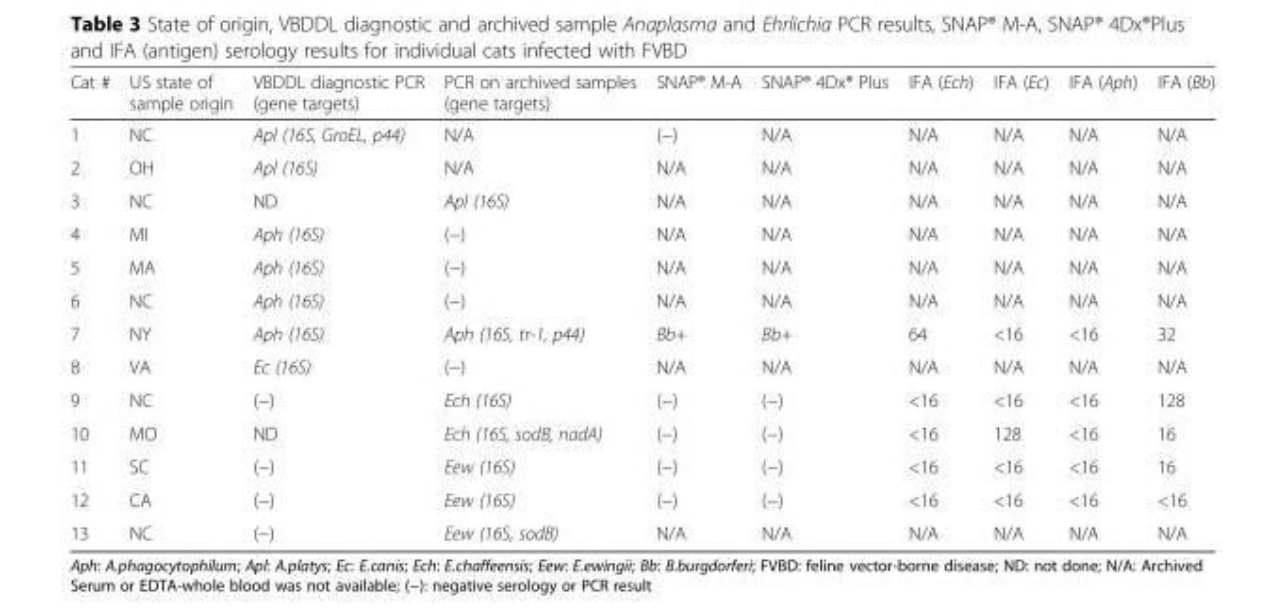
<table><thead><tr><td>Cat #</td><td>US state of sample origin</td><td>VBDDL diagnostic PCR (gene targets)</td><td>PCR on archived samples (gene targets)</td><td>SNAP® M-A</td><td>SNAP® 4Dx® Plus</td><td>IFA (Ech)</td><td>IFA (Ec)</td><td>IFA (Aph)</td><td>IFA (Bb)</td></tr></thead><tbody><tr><td>1</td><td>NC</td><td>Apl (16S, GroEL, p44)</td><td>N/A</td><td>(−)</td><td>N/A</td><td>N/A</td><td>N/A</td><td>N/A</td><td>N/A</td></tr><tr><td>2</td><td>OH</td><td>Apl (16S)</td><td>N/A</td><td>N/A</td><td>N/A</td><td>N/A</td><td>N/A</td><td>N/A</td><td>N/A</td></tr><tr><td>3</td><td>NC</td><td>ND</td><td>Apl (16S)</td><td>N/A</td><td>N/A</td><td>N/A</td><td>N/A</td><td>N/A</td><td>N/A</td></tr><tr><td>4</td><td>MI</td><td>Aph (16S)</td><td>(−)</td><td>N/A</td><td>N/A</td><td>N/A</td><td>N/A</td><td>N/A</td><td>N/A</td></tr><tr><td>5</td><td>MA</td><td>Aph (16S)</td><td>(−)</td><td>N/A</td><td>N/A</td><td>N/A</td><td>N/A</td><td>N/A</td><td>N/A</td></tr><tr><td>6</td><td>NC</td><td>Aph (16S)</td><td>(−)</td><td>N/A</td><td>N/A</td><td>N/A</td><td>N/A</td><td>N/A</td><td>N/A</td></tr><tr><td>7</td><td>NY</td><td>Aph (16S)</td><td>Aph (16S, tr-1, p44)</td><td>Bb+</td><td>Bb+</td><td>64</td><td>&lt;16</td><td>&lt;16</td><td>32</td></tr><tr><td>8</td><td>VA</td><td>Ec (16S)</td><td>(−)</td><td>N/A</td><td>N/A</td><td>N/A</td><td>N/A</td><td>N/A</td><td>N/A</td></tr><tr><td>9</td><td>NC</td><td>(−)</td><td>Ech (16S)</td><td>(−)</td><td>(−)</td><td>&lt;16</td><td>&lt;16</td><td>&lt;16</td><td>128</td></tr><tr><td>10</td><td>MO</td><td>ND</td><td>Ech (16S, sodB, nadA)</td><td>(−)</td><td>(−)</td><td>&lt;16</td><td>128</td><td>&lt;16</td><td>16</td></tr><tr><td>11</td><td>SC</td><td>(−)</td><td>Eew (16S)</td><td>(−)</td><td>(−)</td><td>&lt;16</td><td>&lt;16</td><td>&lt;16</td><td>16</td></tr><tr><td>12</td><td>CA</td><td>(−)</td><td>Eew (16S)</td><td>(−)</td><td>(−)</td><td>&lt;16</td><td>&lt;16</td><td>&lt;16</td><td>&lt;16</td></tr><tr><td>13</td><td>NC</td><td>(−)</td><td>Eew (16S, sodB)</td><td>N/A</td><td>N/A</td><td>N/A</td><td>N/A</td><td>N/A</td><td>N/A</td></tr></tbody></table>